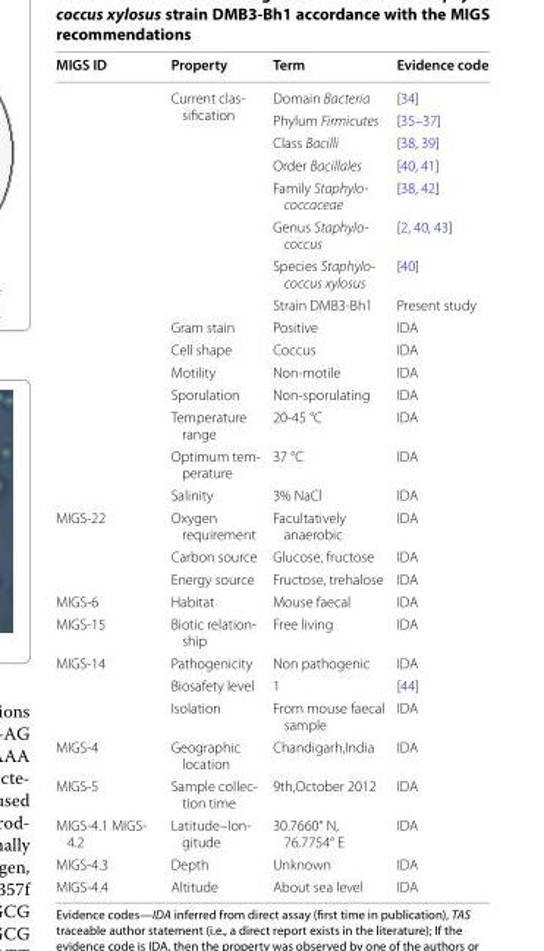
<table><thead><tr><td>MIGS ID</td><td>Property</td><td>Term</td><td>Evidence code</td></tr></thead><tbody><tr><td rowspan="15"></td><td rowspan="8">Current clas- sification</td><td>Domain Bacteria</td><td>[34]</td></tr><tr><td>Phylum Firmicutes</td><td>[35–37]</td></tr><tr><td>Class Bacilli</td><td>[38, 39]</td></tr><tr><td>Order Bacillales</td><td>[40, 41]</td></tr><tr><td>Family Staphylo- coccaceae</td><td>[38, 42]</td></tr><tr><td>Genus Staphylo- coccus</td><td>[2, 40, 43]</td></tr><tr><td>Species Staphylo- coccus xylosus</td><td>[40]</td></tr><tr><td>Strain DMB3-Bh1</td><td>Present study</td></tr><tr><td>Gram stain</td><td>Positive</td><td>IDA</td></tr><tr><td>Cell shape</td><td>Coccus</td><td>IDA</td></tr><tr><td>Motility</td><td>Non-motile</td><td>IDA</td></tr><tr><td>Sporulation</td><td>Non-sporulating</td><td>IDA</td></tr><tr><td>Temperature range</td><td>20-45 °C</td><td>IDA</td></tr><tr><td>Optimum tem- perature</td><td>37 °C</td><td>IDA</td></tr><tr><td>Salinity</td><td>3% NaCl</td><td>IDA</td></tr><tr><td rowspan="3">MIGS-22</td><td>Oxygen requirement</td><td>Facultatively anaerobic</td><td>IDA</td></tr><tr><td>Carbon source</td><td>Glucose, fructose</td><td>IDA</td></tr><tr><td>Energy source</td><td>Fructose, trehalose</td><td>IDA</td></tr><tr><td>MIGS-6</td><td>Habitat</td><td>Mouse faecal</td><td>IDA</td></tr><tr><td>MIGS-15</td><td>Biotic relation- ship</td><td>Free living</td><td>IDA</td></tr><tr><td rowspan="3">MIGS-14</td><td>Pathogenicity</td><td>Non pathogenic</td><td>IDA</td></tr><tr><td>Biosafety level</td><td>1</td><td>[44]</td></tr><tr><td>Isolation</td><td>From mouse faecal sample</td><td>IDA</td></tr><tr><td>MIGS-4</td><td>Geographic location</td><td>Chandigarh,India</td><td>IDA</td></tr><tr><td>MIGS-5</td><td>Sample collec- tion time</td><td>9th,October 2012</td><td>IDA</td></tr><tr><td>MIGS-4.1 MIGS- 4.2</td><td>Latitude–lon- gitude</td><td>30.7660° N, 76.7754° E</td><td>IDA</td></tr><tr><td>MIGS-4.3</td><td>Depth</td><td>Unknown</td><td>IDA</td></tr><tr><td>MIGS-4.4</td><td>Altitude</td><td>About sea level</td><td>IDA</td></tr></tbody></table>